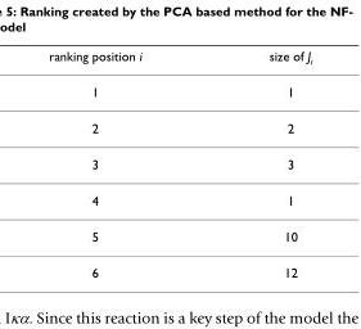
<table><thead><tr><td>ranking position i</td><td>size of J<sub>i</sub></td></tr></thead><tbody><tr><td>1</td><td>1</td></tr><tr><td>2</td><td>2</td></tr><tr><td>3</td><td>3</td></tr><tr><td>4</td><td>1</td></tr><tr><td>5</td><td>10</td></tr><tr><td>6</td><td>12</td></tr></tbody></table>